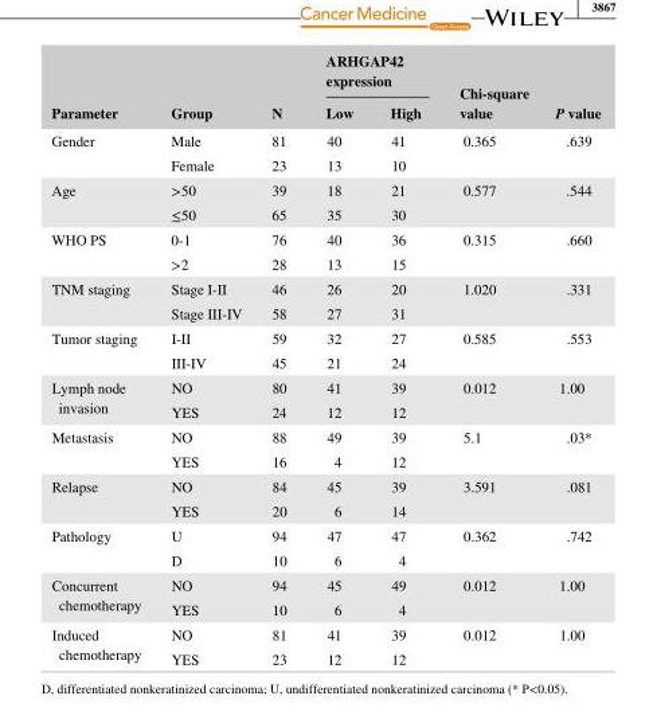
<table><thead><tr><td rowspan="2">Parameter</td><td rowspan="2">Group</td><td rowspan="2">N</td><td colspan="2">ARHGAP42 expression</td><td rowspan="2">Chi- square value</td><td rowspan="2">P value</td></tr><tr><td>Low</td><td>High</td></tr></thead><tbody><tr><td rowspan="2">Gender</td><td>Male</td><td>81</td><td>40</td><td>41</td><td>0.365</td><td>.639</td></tr><tr><td>Female</td><td>23</td><td>13</td><td>10</td><td></td><td></td></tr><tr><td rowspan="2">Age</td><td>&gt;50</td><td>39</td><td>18</td><td>21</td><td>0.577</td><td>.544</td></tr><tr><td>≤50</td><td>65</td><td>35</td><td>30</td><td></td><td></td></tr><tr><td rowspan="2">WHO PS</td><td>0- 1</td><td>76</td><td>40</td><td>36</td><td>0.315</td><td>.660</td></tr><tr><td>&gt;2</td><td>28</td><td>13</td><td>15</td><td></td><td></td></tr><tr><td rowspan="2">TNM staging</td><td>Stage I- II</td><td>46</td><td>26</td><td>20</td><td>1.020</td><td>.331</td></tr><tr><td>Stage III- IV</td><td>58</td><td>27</td><td>31</td><td></td><td></td></tr><tr><td rowspan="2">Tumor staging</td><td>I- II</td><td>59</td><td>32</td><td>27</td><td>0.585</td><td>.553</td></tr><tr><td>III- IV</td><td>45</td><td>21</td><td>24</td><td></td><td></td></tr><tr><td rowspan="2">Lymph node invasion</td><td>NO</td><td>80</td><td>41</td><td>39</td><td>0.012</td><td>1.00</td></tr><tr><td>YES</td><td>24</td><td>12</td><td>12</td><td></td><td></td></tr><tr><td rowspan="2">Metastasis</td><td>NO</td><td>88</td><td>49</td><td>39</td><td>5.1</td><td>.03*</td></tr><tr><td>YES</td><td>16</td><td>4</td><td>12</td><td></td><td></td></tr><tr><td rowspan="2">Relapse</td><td>NO</td><td>84</td><td>45</td><td>39</td><td>3.591</td><td>.081</td></tr><tr><td>YES</td><td>20</td><td>6</td><td>14</td><td></td><td></td></tr><tr><td rowspan="2">Pathology</td><td>U</td><td>94</td><td>47</td><td>47</td><td>0.362</td><td>.742</td></tr><tr><td>D</td><td>10</td><td>6</td><td>4</td><td></td><td></td></tr><tr><td rowspan="2">Concurrent chemotherapy</td><td>NO</td><td>94</td><td>45</td><td>49</td><td>0.012</td><td>1.00</td></tr><tr><td>YES</td><td>10</td><td>6</td><td>4</td><td></td><td></td></tr><tr><td rowspan="2">Induced chemotherapy</td><td>NO</td><td>81</td><td>41</td><td>39</td><td>0.012</td><td>1.00</td></tr><tr><td>YES</td><td>23</td><td>12</td><td>12</td><td></td><td></td></tr></tbody></table>